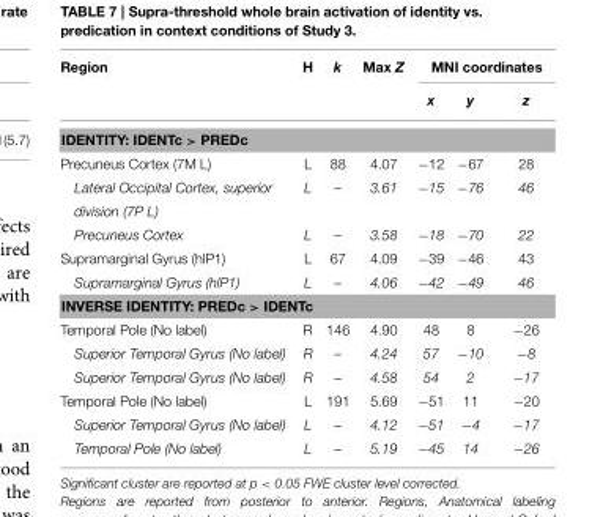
<table><thead><tr><td rowspan="2">Region</td><td rowspan="2">H</td><td rowspan="2">k</td><td rowspan="2">Max Z</td><td colspan="3">MNI coordinates</td></tr><tr><td>x</td><td>y</td><td>z</td></tr></thead><tbody><tr><td colspan="7">IDENTITY: IDENTc &gt; PREDc</td></tr><tr><td>Precuneus Cortex (7M L)</td><td>L</td><td>88</td><td>4.07</td><td>−12</td><td>−67</td><td>28</td></tr><tr><td>Lateral Occipital Cortex, superior</td><td>L</td><td>–</td><td>3.61</td><td>−15</td><td>−76</td><td>46</td></tr><tr><td colspan="7">division (7P L)</td></tr><tr><td>Precuneus Cortex</td><td>L</td><td>–</td><td>3.58</td><td>−18</td><td>−70</td><td>22</td></tr><tr><td>Supramarginal Gyrus (hlP1)</td><td>L</td><td>67</td><td>4.09</td><td>−39</td><td>−46</td><td>43</td></tr><tr><td>Supramarginal Gyrus (hlP1)</td><td>L</td><td>–</td><td>4.06</td><td>−42</td><td>−49</td><td>46</td></tr><tr><td colspan="7">INVERSE IDENTITY: PREDc &gt; IDENTc</td></tr><tr><td>Temporal Pole (No label)</td><td>R</td><td>146</td><td>4.90</td><td>48</td><td>8</td><td>−26</td></tr><tr><td>Superior Temporal Gyrus (No label)</td><td>R</td><td>–</td><td>4.24</td><td>57</td><td>−10</td><td>−8</td></tr><tr><td>Superior Temporal Gyrus (No label)</td><td>R</td><td>–</td><td>4.58</td><td>54</td><td>2</td><td>−17</td></tr><tr><td>Temporal Pole (No label)</td><td>L</td><td>191</td><td>5.69</td><td>−51</td><td>11</td><td>−20</td></tr><tr><td>Superior Temporal Gyrus (No label)</td><td>L</td><td>–</td><td>4.12</td><td>−51</td><td>−4</td><td>−17</td></tr><tr><td>Temporal Pole (No label)</td><td>L</td><td>–</td><td>5.19</td><td>−45</td><td>14</td><td>−26</td></tr></tbody></table>